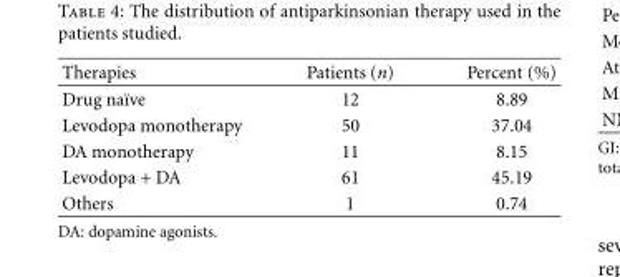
<table><thead><tr><td>Therapies</td><td>Patients (n)</td><td>Percent (%)</td></tr></thead><tbody><tr><td>Drug na¨ıve</td><td>12</td><td>8.89</td></tr><tr><td>Levodopa monotherapy</td><td>50</td><td>37.04</td></tr><tr><td>DA monotherapy</td><td>11</td><td>8.15</td></tr><tr><td>Levodopa + DA</td><td>61</td><td>45.19</td></tr><tr><td>Others</td><td>1</td><td>0.74</td></tr></tbody></table>